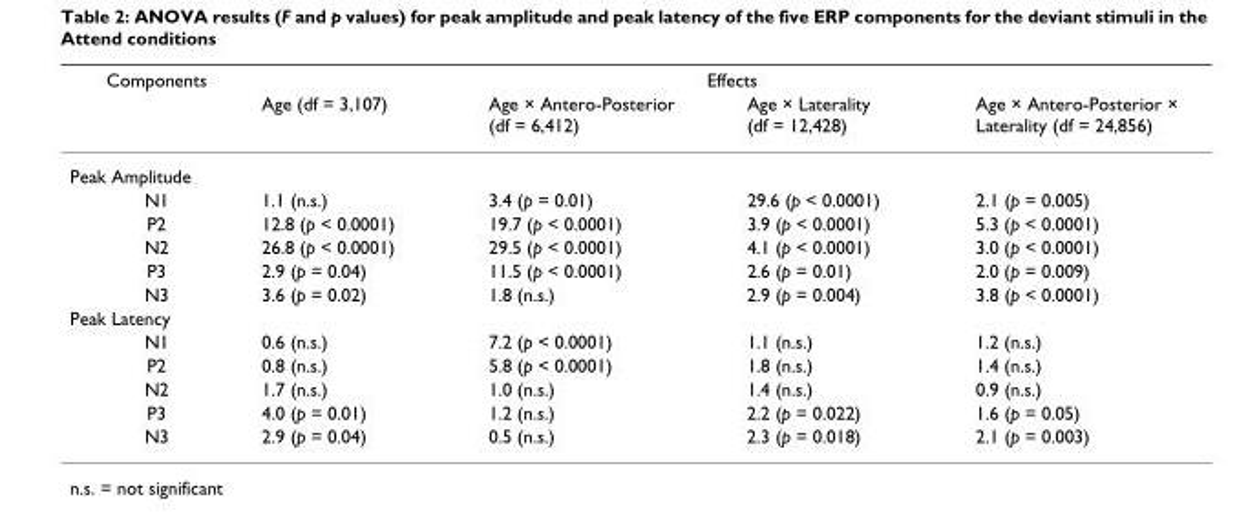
<table><thead><tr><td rowspan="2">Components</td><td colspan="4">Effects</td></tr><tr><td>Age (df = 3,107)</td><td>Age × Antero-Posterior (df = 6,412)</td><td>Age × Laterality (df = 12,428)</td><td>Age × Antero-Posterior × Laterality (df = 24,856)</td></tr></thead><tbody><tr><td colspan="5">Peak Amplitude</td></tr><tr><td>N1</td><td>1.1 (n.s.)</td><td>3.4 (p = 0.01)</td><td>29.6 (p &lt; 0.0001)</td><td>2.1 (p = 0.005)</td></tr><tr><td>P2</td><td>12.8 (p &lt; 0.0001)</td><td>19.7 (p &lt; 0.0001)</td><td>3.9 (p &lt; 0.0001)</td><td>5.3 (p &lt; 0.0001)</td></tr><tr><td>N2</td><td>26.8 (p &lt; 0.0001)</td><td>29.5 (p &lt; 0.0001)</td><td>4.1 (p &lt; 0.0001)</td><td>3.0 (p &lt; 0.0001)</td></tr><tr><td>P3</td><td>2.9 (p = 0.04)</td><td>11.5 (p &lt; 0.0001)</td><td>2.6 (p = 0.01)</td><td>2.0 (p = 0.009)</td></tr><tr><td>N3</td><td>3.6 (p = 0.02)</td><td>1.8 (n.s.)</td><td>2.9 (p = 0.004)</td><td>3.8 (p &lt; 0.0001)</td></tr><tr><td colspan="5">Peak Latency</td></tr><tr><td>N1</td><td>0.6 (n.s.)</td><td>7.2 (p &lt; 0.0001)</td><td>1.1 (n.s.)</td><td>1.2 (n.s.)</td></tr><tr><td>P2</td><td>0.8 (n.s.)</td><td>5.8 (p &lt; 0.0001)</td><td>1.8 (n.s.)</td><td>1.4 (n.s.)</td></tr><tr><td>N2</td><td>1.7 (n.s.)</td><td>1.0 (n.s.)</td><td>1.4 (n.s.)</td><td>0.9 (n.s.)</td></tr><tr><td>P3</td><td>4.0 (p = 0.01)</td><td>1.2 (n.s.)</td><td>2.2 (p = 0.022)</td><td>1.6 (p = 0.05)</td></tr><tr><td>N3</td><td>2.9 (p = 0.04)</td><td>0.5 (n.s.)</td><td>2.3 (p = 0.018)</td><td>2.1 (p = 0.003)</td></tr></tbody></table>